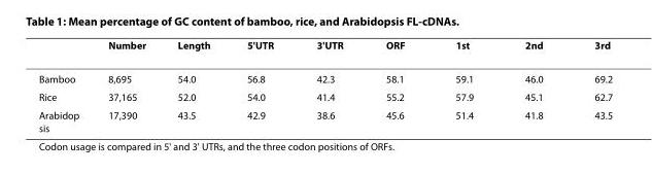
<table><thead><tr><td></td><td>Number</td><td>Length</td><td>5&#x27;UTR</td><td>3&#x27;UTR</td><td>ORF</td><td>1st</td><td>2nd</td><td>3rd</td></tr></thead><tbody><tr><td>Bamboo</td><td>8,695</td><td>54.0</td><td>56.8</td><td>42.3</td><td>58.1</td><td>59.1</td><td>46.0</td><td>69.2</td></tr><tr><td>Rice</td><td>37,165</td><td>52.0</td><td>54.0</td><td>41.4</td><td>55.2</td><td>57.9</td><td>45.1</td><td>62.7</td></tr><tr><td>Arabidop sis</td><td>17,390</td><td>43.5</td><td>42.9</td><td>38.6</td><td>45.6</td><td>51.4</td><td>41.8</td><td>43.5</td></tr></tbody></table>